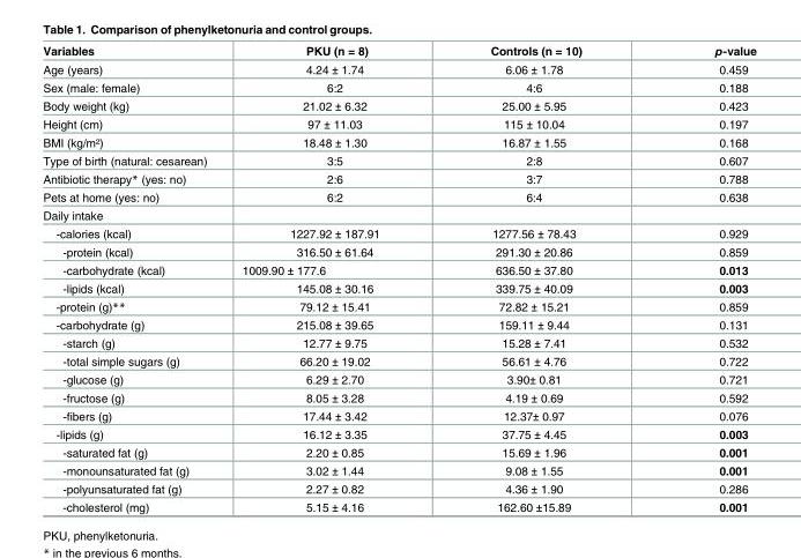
<table><thead><tr><td>Variables</td><td>PKU (n = 8)</td><td>Controls (n = 10)</td><td>p-value</td></tr></thead><tbody><tr><td>Age (years)</td><td>4.24 ± 1.74</td><td>6.06 ± 1.78</td><td>0.459</td></tr><tr><td>Sex (male: female)</td><td>6:2</td><td>4:6</td><td>0.188</td></tr><tr><td>Body weight (kg)</td><td>21.02 ± 6.32</td><td>25.00 ± 5.95</td><td>0.423</td></tr><tr><td>Height (cm)</td><td>97 ± 11.03</td><td>115 ± 10.04</td><td>0.197</td></tr><tr><td>BMI (kg/m²)</td><td>18.48 ± 1.30</td><td>16.87 ± 1.55</td><td>0.168</td></tr><tr><td>Type of birth (natural: cesarean)</td><td>3:5</td><td>2:8</td><td>0.607</td></tr><tr><td>Antibiotic therapy* (yes: no)</td><td>2:6</td><td>3:7</td><td>0.788</td></tr><tr><td>Pets at home (yes: no)</td><td>6:2</td><td>6:4</td><td>0.638</td></tr><tr><td colspan="4">Daily intake</td></tr><tr><td>-calories (kcal)</td><td>1227.92 ± 187.91</td><td>1277.56 ± 78.43</td><td>0.929</td></tr><tr><td>-protein (kcal)</td><td>316.50 ± 61.64</td><td>291.30 ± 20.86</td><td>0.859</td></tr><tr><td>-carbohydrate (kcal)</td><td>1009.90 ± 177.6</td><td>636.50 ± 37.80</td><td>0.013</td></tr><tr><td>-lipids (kcal)</td><td>145.08 ± 30.16</td><td>339.75 ± 40.09</td><td>0.003</td></tr><tr><td>-protein (g)**</td><td>79.12 ± 15.41</td><td>72.82 ± 15.21</td><td>0.859</td></tr><tr><td>-carbohydrate (g)</td><td>215.08 ± 39.65</td><td>159.11 ± 9.44</td><td>0.131</td></tr><tr><td>-starch (g)</td><td>12.77 ± 9.75</td><td>15.28 ± 7.41</td><td>0.532</td></tr><tr><td>-total simple sugars (g)</td><td>66.20 ± 19.02</td><td>56.61 ± 4.76</td><td>0.722</td></tr><tr><td>-glucose (g)</td><td>6.29 ± 2.70</td><td>3.90± 0.81</td><td>0.721</td></tr><tr><td>-fructose (g)</td><td>8.05 ± 3.28</td><td>4.19 ± 0.69</td><td>0.592</td></tr><tr><td>-fibers (g)</td><td>17.44 ± 3.42</td><td>12.37± 0.97</td><td>0.076</td></tr><tr><td>-lipids (g)</td><td>16.12 ± 3.35</td><td>37.75 ± 4.45</td><td>0.003</td></tr><tr><td>-saturated fat (g)</td><td>2.20 ± 0.85</td><td>15.69 ± 1.96</td><td>0.001</td></tr><tr><td>-monounsaturated fat (g)</td><td>3.02 ± 1.44</td><td>9.08 ± 1.55</td><td>0.001</td></tr><tr><td>-polyunsaturated fat (g)</td><td>2.27 ± 0.82</td><td>4.36 ± 1.90</td><td>0.286</td></tr><tr><td>-cholesterol (mg)</td><td>5.15 ± 4.16</td><td>162.60 ±15.89</td><td>0.001</td></tr></tbody></table>